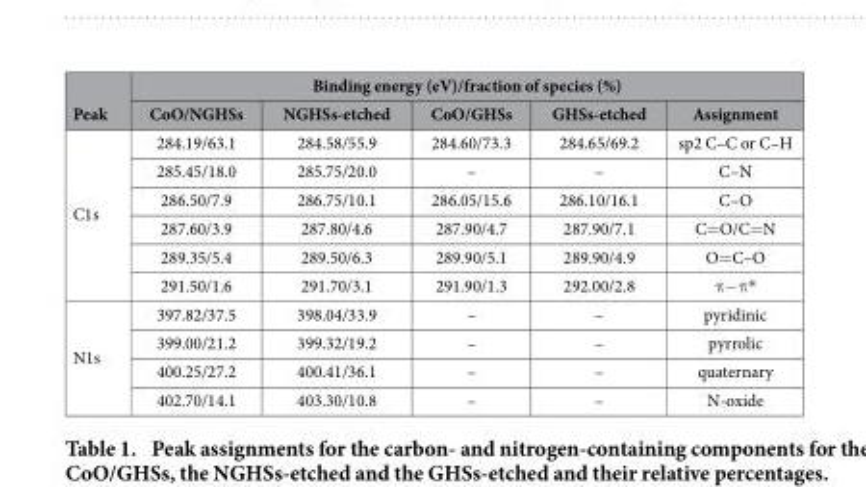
<table><thead><tr><td rowspan="2">Peak</td><td colspan="5">Binding energy (eV)/fraction of species (%)</td></tr><tr><td>CoO/NGHSs</td><td>NGHSs-etched</td><td>CoO/GHSs</td><td>GHSs-etched</td><td>Assignment</td></tr></thead><tbody><tr><td rowspan="6">C1s</td><td>284.19/63.1</td><td>284.58/55.9</td><td>284.60/73.3</td><td>284.65/69.2</td><td>sp2 C–C or C–H</td></tr><tr><td>285.45/18.0</td><td>285.75/20.0</td><td>–</td><td>–</td><td>C–N</td></tr><tr><td>286.50/7.9</td><td>286.75/10.1</td><td>286.05/15.6</td><td>286.10/16.1</td><td>C–O</td></tr><tr><td>287.60/3.9</td><td>287.80/4.6</td><td>287.90/4.7</td><td>287.90/7.1</td><td>C= O/C= N</td></tr><tr><td>289.35/5.4</td><td>289.50/6.3</td><td>289.90/5.1</td><td>289.90/4.9</td><td>O= C–O</td></tr><tr><td>291.50/1.6</td><td>291.70/3.1</td><td>291.90/1.3</td><td>292.00/2.8</td><td>π −π *</td></tr><tr><td rowspan="4">N1s</td><td>397.82/37.5</td><td>398.04/33.9</td><td>–</td><td>–</td><td>pyridinic</td></tr><tr><td>399.00/21.2</td><td>399.32/19.2</td><td>–</td><td>–</td><td>pyrrolic</td></tr><tr><td>400.25/27.2</td><td>400.41/36.1</td><td>–</td><td>–</td><td>quaternary</td></tr><tr><td>402.70/14.1</td><td>403.30/10.8</td><td>–</td><td>–</td><td>N-oxide</td></tr></tbody></table>